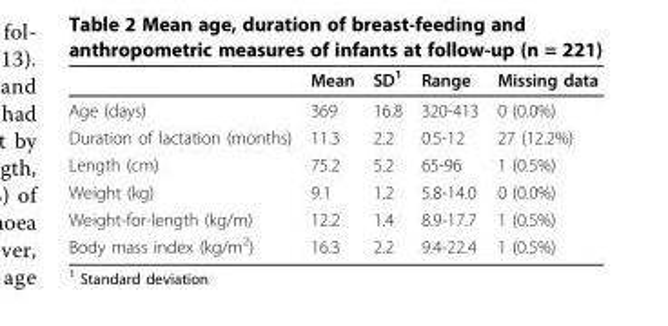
<table><thead><tr><td></td><td>Mean</td><td>SD<sup>1</sup></td><td>Range</td><td>Missing data</td></tr></thead><tbody><tr><td>Age (days)</td><td>369</td><td>16.8</td><td>320-413</td><td>0 (0.0%)</td></tr><tr><td>Duration of lactation (months)</td><td>11.3</td><td>2.2</td><td>0.5-12</td><td>27 (12.2%)</td></tr><tr><td>Length (cm)</td><td>75.2</td><td>5.2</td><td>65-96</td><td>1 (0.5%)</td></tr><tr><td>Weight (kg)</td><td>9.1</td><td>1.2</td><td>5.8-14.0</td><td>0 (0.0%)</td></tr><tr><td>Weight-for-length (kg/m)</td><td>12.2</td><td>1.4</td><td>8.9-17.7</td><td>1 (0.5%)</td></tr><tr><td>Body mass index (kg/m<sup>2</sup>)</td><td>16.3</td><td>2.2</td><td>9.4-22.4</td><td>1 (0.5%)</td></tr></tbody></table>